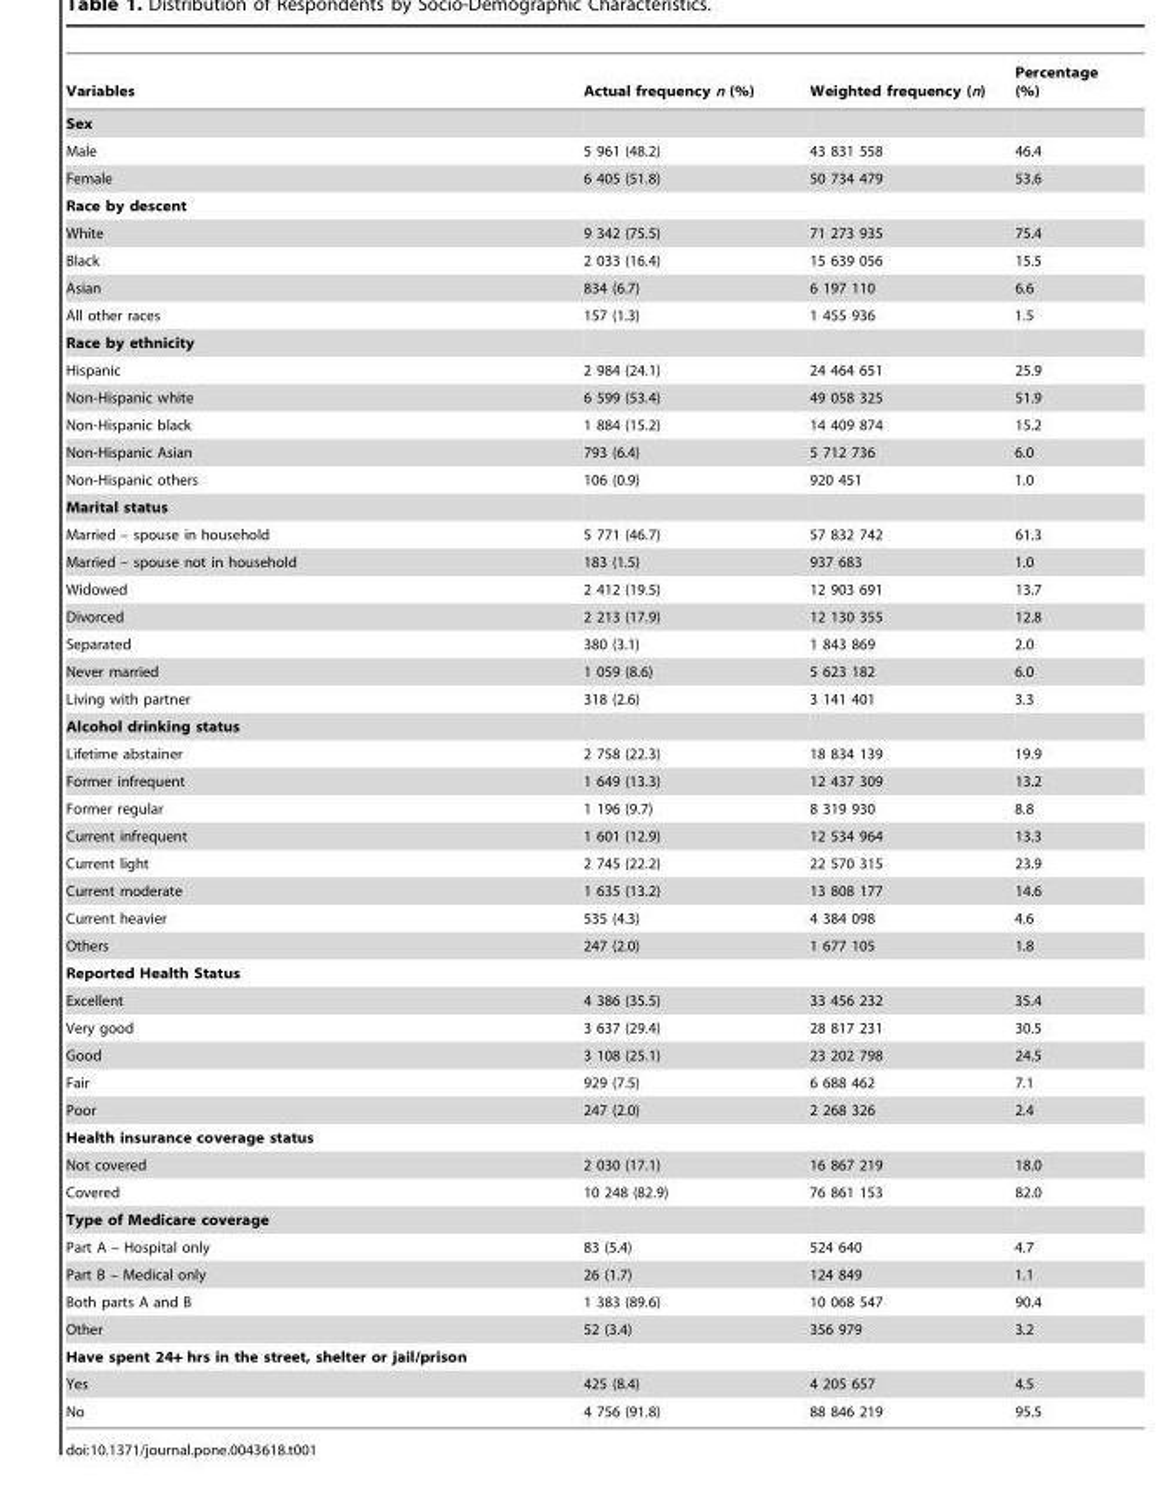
<table><thead><tr><td>Variables</td><td>Actual frequency n (%)</td><td>Weighted frequency (n)</td><td>Percentage (%)</td></tr></thead><tbody><tr><td colspan="4">Sex</td></tr><tr><td>Male</td><td>5 961 (48.2)</td><td>43 831 558</td><td>46.4</td></tr><tr><td>Female</td><td>6 405 (51.8)</td><td>50 734 479</td><td>53.6</td></tr><tr><td colspan="4">Race by descent</td></tr><tr><td>White</td><td>9 342 (75.5)</td><td>71 273 935</td><td>75.4</td></tr><tr><td>Black</td><td>2 033 (16.4)</td><td>15 639 056</td><td>15.5</td></tr><tr><td>Asian</td><td>834 (6.7)</td><td>6 197 110</td><td>6.6</td></tr><tr><td>All other races</td><td>157 (1.3)</td><td>1 455 936</td><td>1.5</td></tr><tr><td colspan="4">Race by ethnicity</td></tr><tr><td>Hispanic</td><td>2 984 (24.1)</td><td>24 464 651</td><td>25.9</td></tr><tr><td>Non-Hispanic white</td><td>6 599 (53.4)</td><td>49 058 325</td><td>51.9</td></tr><tr><td>Non-Hispanic black</td><td>1 884 (15.2)</td><td>14 409 874</td><td>15.2</td></tr><tr><td>Non-Hispanic Asian</td><td>793 (6.4)</td><td>5 712 736</td><td>6.0</td></tr><tr><td>Non-Hispanic others</td><td>106 (0.9)</td><td>920 451</td><td>1.0</td></tr><tr><td colspan="4">Marital status</td></tr><tr><td>Married – spouse in household</td><td>5 771 (46.7)</td><td>57 832 742</td><td>61.3</td></tr><tr><td>Married – spouse not in household</td><td>183 (1.5)</td><td>937 683</td><td>1.0</td></tr><tr><td>Widowed</td><td>2 412 (19.5)</td><td>12 903 691</td><td>13.7</td></tr><tr><td>Divorced</td><td>2 213 (17.9)</td><td>12 130 355</td><td>12.8</td></tr><tr><td>Separated</td><td>380 (3.1)</td><td>1 843 869</td><td>2.0</td></tr><tr><td>Never married</td><td>1 059 (8.6)</td><td>5 623 182</td><td>6.0</td></tr><tr><td>Living with partner</td><td>318 (2.6)</td><td>3 141 401</td><td>3.3</td></tr><tr><td colspan="4">Alcohol drinking status</td></tr><tr><td>Lifetime abstainer</td><td>2 758 (22.3)</td><td>18 834 139</td><td>19.9</td></tr><tr><td>Former infrequent</td><td>1 649 (13.3)</td><td>12 437 309</td><td>13.2</td></tr><tr><td>Former regular</td><td>1 196 (9.7)</td><td>8 319 930</td><td>8.8</td></tr><tr><td>Current infrequent</td><td>1 601 (12.9)</td><td>12 534 964</td><td>13.3</td></tr><tr><td>Current light</td><td>2 745 (22.2)</td><td>22 570 315</td><td>23.9</td></tr><tr><td>Current moderate</td><td>1 635 (13.2)</td><td>13 808 177</td><td>14.6</td></tr><tr><td>Current heavier</td><td>535 (4.3)</td><td>4 384 098</td><td>4.6</td></tr><tr><td>Others</td><td>247 (2.0)</td><td>1 677 105</td><td>1.8</td></tr><tr><td colspan="4">Reported Health Status</td></tr><tr><td>Excellent</td><td>4 386 (35.5)</td><td>33 456 232</td><td>35.4</td></tr><tr><td>Very good</td><td>3 637 (29.4)</td><td>28 817 231</td><td>30.5</td></tr><tr><td>Good</td><td>3 108 (25.1)</td><td>23 202 798</td><td>24.5</td></tr><tr><td>Fair</td><td>929 (7.5)</td><td>6 688 462</td><td>7.1</td></tr><tr><td>Poor</td><td>247 (2.0)</td><td>2 268 326</td><td>2.4</td></tr><tr><td colspan="4">Health insurance coverage status</td></tr><tr><td>Not covered</td><td>2 030 (17.1)</td><td>16 867 219</td><td>18.0</td></tr><tr><td>Covered</td><td>10 248 (82.9)</td><td>76 861 153</td><td>82.0</td></tr><tr><td colspan="4">Type of Medicare coverage</td></tr><tr><td>Part A – Hospital only</td><td>83 (5.4)</td><td>524 640</td><td>4.7</td></tr><tr><td>Part B – Medical only</td><td>26 (1.7)</td><td>124 849</td><td>1.1</td></tr><tr><td>Both parts A and B</td><td>1 383 (89.6)</td><td>10 068 547</td><td>90.4</td></tr><tr><td>Other</td><td>52 (3.4)</td><td>356 979</td><td>3.2</td></tr><tr><td colspan="4">Have spent 24+ hrs in the street, shelter or jail/prison</td></tr><tr><td>Yes</td><td>425 (8.4)</td><td>4 205 657</td><td>4.5</td></tr><tr><td>No</td><td>4 756 (91.8)</td><td>88 846 219</td><td>95.5</td></tr></tbody></table>